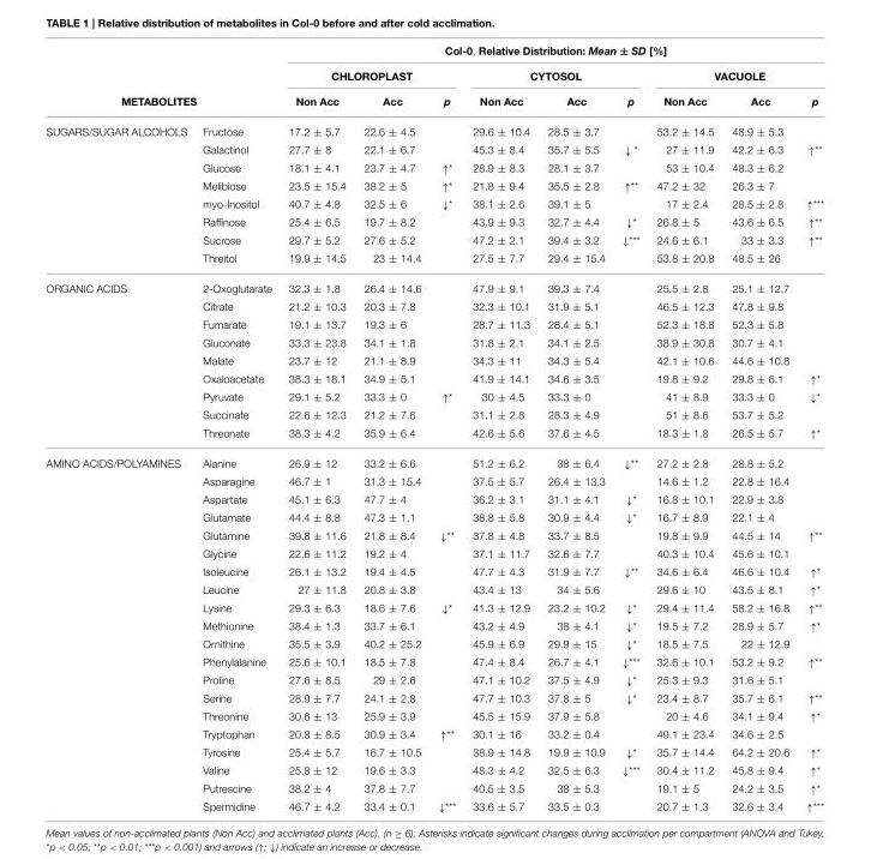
<table><thead><tr><td rowspan="2"></td><td rowspan="2"></td><td colspan="9">Col-0, Relative Distribution: Mean ± SD [%]</td></tr><tr><td colspan="3">CHLOROPLAST</td><td colspan="3">CYTOSOL</td><td colspan="3">VACUOLE</td></tr><tr><td colspan="2">METABOLITES</td><td>Non Acc</td><td>Acc</td><td>p</td><td>Non Acc</td><td>Acc</td><td>p</td><td>Non Acc</td><td>Acc</td><td>p</td></tr></thead><tbody><tr><td rowspan="8">SUGARS/SUGAR ALCOHOLS</td><td>Fructose</td><td>17.2 ± 5.7</td><td>22.6 ± 4.5</td><td></td><td>29.6 ± 10.4</td><td>28.5 ± 3.7</td><td></td><td>53.2 ± 14.5</td><td>48.9 ± 5.3</td><td></td></tr><tr><td>Galactinol</td><td>27.7 ± 8</td><td>22.1 ± 6.7</td><td></td><td>45.3 ± 8.4</td><td>35.7 ± 5.5</td><td>↓ *</td><td>27 ± 11.9</td><td>42.2 ± 6.3</td><td>↑**</td></tr><tr><td>Glucose</td><td>18.1 ± 4.1</td><td>23.7 ± 4.7</td><td>↑*</td><td>28.9 ± 8.3</td><td>28.1 ± 3.7</td><td></td><td>53 ± 10.4</td><td>48.3 ± 6.2</td><td></td></tr><tr><td>Melibiose</td><td>23.5 ± 15.4</td><td>38.2 ± 5</td><td>↑*</td><td>21.8 ± 9.4</td><td>35.5 ± 2.8</td><td>↑**</td><td>47.2 ± 32</td><td>26.3 ± 7</td><td></td></tr><tr><td>myo-Inositol</td><td>40.7 ± 4.8</td><td>32.5 ± 6</td><td>↓*</td><td>38.1 ± 2.6</td><td>39.1 ± 5</td><td></td><td>17 ± 2.4</td><td>28.5 ± 2.8</td><td>↑***</td></tr><tr><td>Raffinose</td><td>25.4 ± 6.5</td><td>19.7 ± 8.2</td><td></td><td>43.9 ± 9.3</td><td>32.7 ± 4.4</td><td>↓*</td><td>26.8 ± 5</td><td>43.6 ± 6.5</td><td>↑**</td></tr><tr><td>Sucrose</td><td>29.7 ± 5.2</td><td>27.6 ± 5.2</td><td></td><td>47.2 ± 2.1</td><td>39.4 ± 3.2</td><td>↓***</td><td>24.6 ± 6.1</td><td>33 ± 3.3</td><td>↑**</td></tr><tr><td>Threitol</td><td>19.9 ± 14.5</td><td>23 ± 14.4</td><td></td><td>27.5 ± 7.7</td><td>29.4 ± 15.4</td><td></td><td>53.8 ± 20.8</td><td>48.5 ± 26</td><td></td></tr><tr><td rowspan="9">ORGANIC ACIDS</td><td>2-Oxoglutarate</td><td>32.3 ± 1.8</td><td>26.4 ± 14.6</td><td></td><td>47.9 ± 9.1</td><td>39.3 ± 7.4</td><td></td><td>25.5 ± 2.8</td><td>25.1 ± 12.7</td><td></td></tr><tr><td>Citrate</td><td>21.2 ± 10.3</td><td>20.3 ± 7.8</td><td></td><td>32.3 ± 10.1</td><td>31.9 ± 5.1</td><td></td><td>46.5 ± 12.3</td><td>47.8 ± 9.8</td><td></td></tr><tr><td>Fumarate</td><td>19.1 ± 13.7</td><td>19.3 ± 6</td><td></td><td>28.7 ± 11.3</td><td>28.4 ± 5.1</td><td></td><td>52.3 ± 18.8</td><td>52.3 ± 5.8</td><td></td></tr><tr><td>Gluconate</td><td>33.3 ± 23.8</td><td>34.1 ± 1.8</td><td></td><td>31.8 ± 2.1</td><td>34.1 ± 2.5</td><td></td><td>38.9 ± 30.8</td><td>30.7 ± 4.1</td><td></td></tr><tr><td>Malate</td><td>23.7 ± 12</td><td>21.1 ± 8.9</td><td></td><td>34.3 ± 11</td><td>34.3 ± 5.4</td><td></td><td>42.1 ± 10.6</td><td>44.6 ± 10.8</td><td></td></tr><tr><td>Oxaloacetate</td><td>38.3 ± 18.1</td><td>34.9 ± 5.1</td><td></td><td>41.9 ± 14.1</td><td>34.6 ± 3.5</td><td></td><td>19.8 ± 9.2</td><td>29.8 ± 6.1</td><td>↑*</td></tr><tr><td>Pyruvate</td><td>29.1 ± 5.2</td><td>33.3 ± 0</td><td>↑*</td><td>30 ± 4.5</td><td>33.3 ± 0</td><td></td><td>41 ± 8.9</td><td>33.3 ± 0</td><td>↓*</td></tr><tr><td>Succinate</td><td>22.6 ± 12.3</td><td>21.2 ± 7.6</td><td></td><td>31.1 ± 2.8</td><td>28.3 ± 4.9</td><td></td><td>51 ± 8.6</td><td>53.7 ± 5.2</td><td></td></tr><tr><td>Threonate</td><td>38.3 ± 4.2</td><td>35.9 ± 6.4</td><td></td><td>42.6 ± 5.6</td><td>37.6 ± 4.5</td><td></td><td>18.3 ± 1.8</td><td>26.5 ± 5.7</td><td>↑*</td></tr><tr><td rowspan="20">AMINO ACIDS/POLYAMINES</td><td>Alanine</td><td>26.9 ± 12</td><td>33.2 ± 6.6</td><td></td><td>51.2 ± 6.2</td><td>38 ± 6.4</td><td>↓**</td><td>27.2 ± 2.8</td><td>28.8 ± 5.2</td><td></td></tr><tr><td>Asparagine</td><td>46.7 ± 1</td><td>31.3 ± 15.4</td><td></td><td>37.5 ± 5.7</td><td>26.4 ± 13.3</td><td></td><td>14.6 ± 1.2</td><td>22.8 ± 16.4</td><td></td></tr><tr><td>Aspartate</td><td>45.1 ± 6.3</td><td>47.7 ± 4</td><td></td><td>36.2 ± 3.1</td><td>31.1 ± 4.1</td><td>↓*</td><td>16.8 ± 10.1</td><td>22.9 ± 3.8</td><td></td></tr><tr><td>Glutamate</td><td>44.4 ± 8.8</td><td>47.3 ± 1.1</td><td></td><td>38.8 ± 5.8</td><td>30.9 ± 4.4</td><td>↓*</td><td>16.7 ± 8.9</td><td>22.1 ± 4</td><td></td></tr><tr><td>Glutamine</td><td>39.8 ± 11.6</td><td>21.8 ± 8.4</td><td>↓**</td><td>37.8 ± 4.8</td><td>33.7 ± 8.5</td><td></td><td>19.8 ± 9.9</td><td>44.5 ± 14</td><td>↑**</td></tr><tr><td>Glycine</td><td>22.6 ± 11.2</td><td>19.2 ± 4</td><td></td><td>37.1 ± 11.7</td><td>32.6 ± 7.7</td><td></td><td>40.3 ± 10.4</td><td>45.6 ± 10.1</td><td></td></tr><tr><td>Isoleucine</td><td>26.1 ± 13.2</td><td>19.4 ± 4.5</td><td></td><td>47.7 ± 4.3</td><td>31.9 ± 7.7</td><td>↓**</td><td>34.6 ± 6.4</td><td>46.6 ± 10.4</td><td>↑*</td></tr><tr><td>Leucine</td><td>27 ± 11.8</td><td>20.8 ± 3.8</td><td></td><td>43.4 ± 13</td><td>34 ± 5.6</td><td></td><td>29.6 ± 10</td><td>43.5 ± 8.1</td><td>↑*</td></tr><tr><td>Lysine</td><td>29.3 ± 6.3</td><td>18.6 ± 7.6</td><td>↓*</td><td>41.3 ± 12.9</td><td>23.2 ± 10.2</td><td>↓*</td><td>29.4 ± 11.4</td><td>58.2 ± 16.8</td><td>↑**</td></tr><tr><td>Methionine</td><td>38.4 ± 1.3</td><td>33.7 ± 6.1</td><td></td><td>43.2 ± 4.9</td><td>38 ± 4.1</td><td>↓*</td><td>19.5 ± 7.2</td><td>28.9 ± 5.7</td><td>↑*</td></tr><tr><td>Ornithine</td><td>35.5 ± 3.9</td><td>40.2 ± 25.2</td><td></td><td>45.9 ± 6.9</td><td>29.9 ± 15</td><td>↓*</td><td>18.5 ± 7.5</td><td>22 ± 12.9</td><td></td></tr><tr><td>Phenylalanine</td><td>25.6 ± 10.1</td><td>18.5 ± 7.8</td><td></td><td>47.4 ± 8.4</td><td>26.7 ± 4.1</td><td>↓***</td><td>32.6 ± 10.1</td><td>53.2 ± 9.2</td><td>↑**</td></tr><tr><td>Proline</td><td>27.6 ± 8.5</td><td>29 ± 2.6</td><td></td><td>47.1 ± 10.2</td><td>37.5 ± 4.9</td><td>↓*</td><td>25.3 ± 9.3</td><td>31.6 ± 5.1</td><td></td></tr><tr><td>Serine</td><td>28.9 ± 7.7</td><td>24.1 ± 2.8</td><td></td><td>47.7 ± 10.3</td><td>37.8 ± 5</td><td>↓*</td><td>23.4 ± 8.7</td><td>35.7 ± 6.1</td><td>↑**</td></tr><tr><td>Threonine</td><td>30.6 ± 13</td><td>25.9 ± 3.9</td><td></td><td>45.5 ± 15.9</td><td>37.9 ± 5.8</td><td></td><td>20 ± 4.6</td><td>34.1 ± 9.4</td><td>↑*</td></tr><tr><td>Tryptophan</td><td>20.8 ± 8.5</td><td>30.9 ± 3.4</td><td>↑**</td><td>30.1 ± 16</td><td>33.2 ± 0.4</td><td></td><td>49.1 ± 23.4</td><td>34.6 ± 2.5</td><td></td></tr><tr><td>Tyrosine</td><td>25.4 ± 5.7</td><td>16.7 ± 10.5</td><td></td><td>38.9 ± 14.8</td><td>19.9 ± 10.9</td><td>↓*</td><td>35.7 ± 14.4</td><td>64.2 ± 20.6</td><td>↑*</td></tr><tr><td>Valine</td><td>25.8 ± 12</td><td>19.6 ± 3.3</td><td></td><td>48.3 ± 4.2</td><td>32.5 ± 6.3</td><td>↓***</td><td>30.4 ± 11.2</td><td>45.8 ± 9.4</td><td>↑*</td></tr><tr><td>Putrescine</td><td>38.2 ± 4</td><td>37.8 ± 7.7</td><td></td><td>40.5 ± 3.5</td><td>38 ± 5.3</td><td></td><td>19.1 ± 5</td><td>24.2 ± 3.5</td><td>↑*</td></tr><tr><td>Spermidine</td><td>46.7 ± 4.2</td><td>33.4 ± 0.1</td><td>↓***</td><td>33.6 ± 5.7</td><td>33.5 ± 0.3</td><td></td><td>20.7 ± 1.3</td><td>32.6 ± 3.4</td><td>↑***</td></tr></tbody></table>